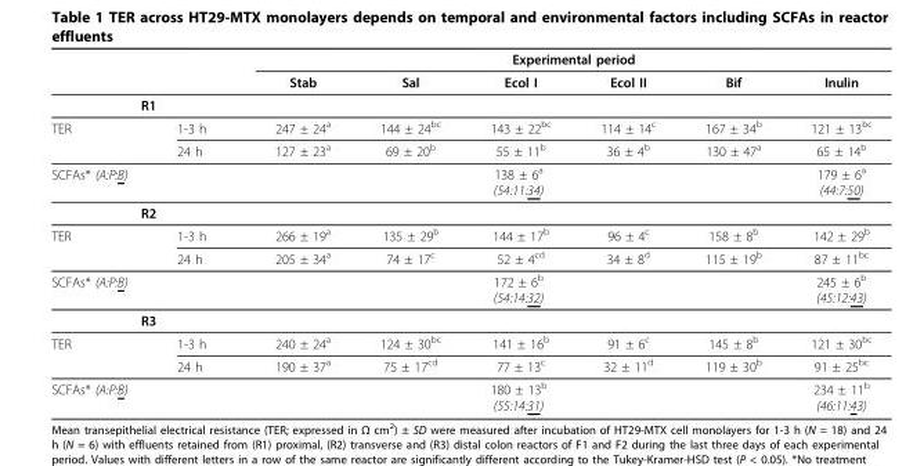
<table><thead><tr><td rowspan="2"></td><td rowspan="2"></td><td colspan="6">Experimental period</td></tr><tr><td>Stab</td><td>Sal</td><td>Ecol I</td><td>Ecol II</td><td>Bif</td><td>Inulin</td></tr></thead><tbody><tr><td colspan="8">R1</td></tr><tr><td rowspan="2">TER</td><td>1-3 h</td><td>247 ± 24<sup>a</sup></td><td>144 ± 24<sup>bc</sup></td><td>143 ± 22<sup>bc</sup></td><td>114 ± 14<sup>c</sup></td><td>167 ± 34<sup>b</sup></td><td>121 ± 13<sup>bc</sup></td></tr><tr><td>24 h</td><td>127 ± 23<sup>a</sup></td><td>69 ± 20<sup>b</sup></td><td>55 ± 11<sup>b</sup></td><td>36 ± 4<sup>b</sup></td><td>130 ± 47<sup>a</sup></td><td>65 ± 14<sup>b</sup></td></tr><tr><td>SCFAs* (A:P:B)</td><td></td><td colspan="5">138 ± 6<sup>a</sup> (54:11:34)</td><td>179 ± 6<sup>a</sup> (44:7:50)</td></tr><tr><td colspan="8">R2</td></tr><tr><td rowspan="2">TER</td><td>1-3 h</td><td>266 ± 19<sup>a</sup></td><td>135 ± 29<sup>b</sup></td><td>144 ± 17<sup>b</sup></td><td>96 ± 4<sup>c</sup></td><td>158 ± 8<sup>b</sup></td><td>142 ± 29<sup>b</sup></td></tr><tr><td>24 h</td><td>205 ± 34<sup>a</sup></td><td>74 ± 17<sup>c</sup></td><td>52 ± 4<sup>cd</sup></td><td>34 ± 8<sup>d</sup></td><td>115 ± 19<sup>b</sup></td><td>87 ± 11<sup>bc</sup></td></tr><tr><td>SCFAs* (A:P:B)</td><td></td><td colspan="5">172 ± 6<sup>b</sup> (54:14:32)</td><td>245 ± 6<sup>b</sup> (45:12:43)</td></tr><tr><td colspan="8">R3</td></tr><tr><td rowspan="2">TER</td><td>1-3 h</td><td>240 ± 24<sup>a</sup></td><td>124 ± 30<sup>bc</sup></td><td>141 ± 16<sup>b</sup></td><td>91 ± 6<sup>c</sup></td><td>145 ± 8<sup>b</sup></td><td>121 ± 30<sup>bc</sup></td></tr><tr><td>24 h</td><td>190 ± 37<sup>a</sup></td><td>75 ± 17<sup>cd</sup></td><td>77 ± 13<sup>c</sup></td><td>32 ± 11<sup>d</sup></td><td>119 ± 30<sup>b</sup></td><td>91 ± 25<sup>bc</sup></td></tr><tr><td>SCFAs* (A:P:B)</td><td></td><td colspan="5">180 ± 13<sup>b</sup> (55:14:31)</td><td>234 ± 11<sup>b</sup> (46:11:43)</td></tr></tbody></table>